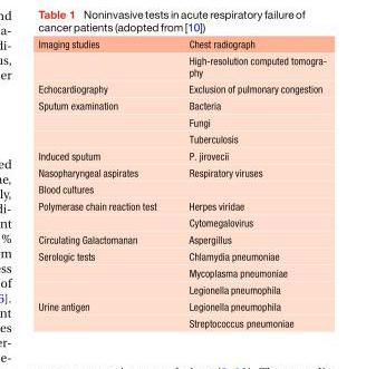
<table><thead><tr><td>Imaging studies</td><td>Chest radiograph</td></tr></thead><tbody><tr><td></td><td>High-resolution computed tomogra- phy</td></tr><tr><td>Echocardiography</td><td>Exclusion of pulmonary congestion</td></tr><tr><td rowspan="3">Sputum examination</td><td>Bacteria</td></tr><tr><td>Fungi</td></tr><tr><td>Tuberculosis</td></tr><tr><td>Induced sputum</td><td>P. jirovecii</td></tr><tr><td>Nasopharyngeal aspirates</td><td>Respiratory viruses</td></tr><tr><td colspan="2">Blood cultures</td></tr><tr><td rowspan="2">Polymerase chain reaction test</td><td>Herpes viridae</td></tr><tr><td>Cytomegalovirus</td></tr><tr><td>Circulating Galactomanan</td><td>Aspergillus</td></tr><tr><td rowspan="3">Serologic tests</td><td>Chlamydia pneumoniae</td></tr><tr><td>Mycoplasma pneumoniae</td></tr><tr><td>Legionella pneumophila</td></tr><tr><td rowspan="2">Urine antigen</td><td>Legionella pneumophila</td></tr><tr><td>Streptococcus pneumoniae</td></tr></tbody></table>